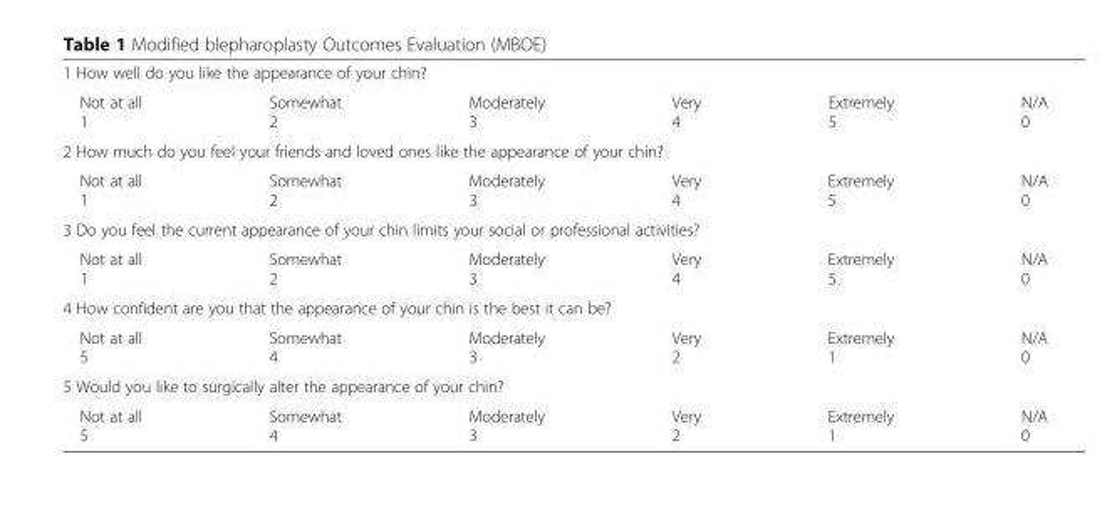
<table><tbody><tr><td colspan="6">1 How well do you like the appearance of your chin?</td></tr><tr><td>Not at all 1</td><td>Somewhat 2</td><td>Moderately 3</td><td>Very 4</td><td>Extremely 5</td><td>N/A 0</td></tr><tr><td colspan="6">2 How much do you feel your friends and loved ones like the appearance of your chin?</td></tr><tr><td>Not at all 1</td><td>Somewhat 2</td><td>Moderately 3</td><td>Very 4</td><td>Extremely 5</td><td>N/A 0</td></tr><tr><td colspan="6">3 Do you feel the current appearance of your chin limits your social or professional activities?</td></tr><tr><td>Not at all 1</td><td>Somewhat 2</td><td>Moderately 3</td><td>Very 4</td><td>Extremely 5</td><td>N/A 0</td></tr><tr><td colspan="6">4 How confident are you that the appearance of your chin is the best it can be?</td></tr><tr><td>Not at all 5</td><td>Somewhat 4</td><td>Moderately 3</td><td>Very 2</td><td>Extremely 1</td><td>N/A 0</td></tr><tr><td colspan="6">5 Would you like to surgically alter the appearance of your chin?</td></tr><tr><td>Not at all 5</td><td>Somewhat 4</td><td>Moderately 3</td><td>Very 2</td><td>Extremely 1</td><td>N/A 0</td></tr></tbody></table>